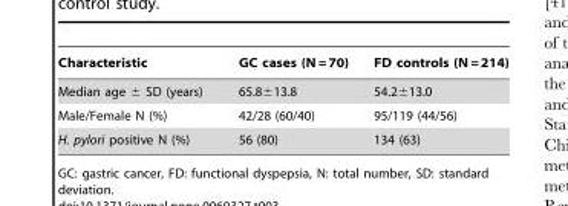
<table><thead><tr><td>Characteristic</td><td>GC cases (N = 70)</td><td>FD controls (N = 214)</td></tr></thead><tbody><tr><td>Median age ± SD (years)</td><td>65.8±13.8</td><td>54.2±13.0</td></tr><tr><td>Male/Female N (%)</td><td>42/28 (60/40)</td><td>95/119 (44/56)</td></tr><tr><td>H. pylori positive N (%)</td><td>56 (80)</td><td>134 (63)</td></tr></tbody></table>